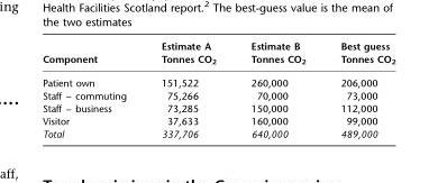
<table><thead><tr><td>Component</td><td>Estimate A Tonnes CO<sub>2</sub></td><td>Estimate B Tonnes CO<sub>2</sub></td><td>Best guess Tonnes CO<sub>2</sub></td></tr></thead><tbody><tr><td>Patient own</td><td>151,522</td><td>260,000</td><td>206,000</td></tr><tr><td>Staff – commuting</td><td>75,266</td><td>70,000</td><td>73,000</td></tr><tr><td>Staff – business</td><td>73,285</td><td>150,000</td><td>112,000</td></tr><tr><td>Visitor</td><td>37,633</td><td>160,000</td><td>99,000</td></tr><tr><td>Total</td><td>337,706</td><td>640,000</td><td>489,000</td></tr></tbody></table>